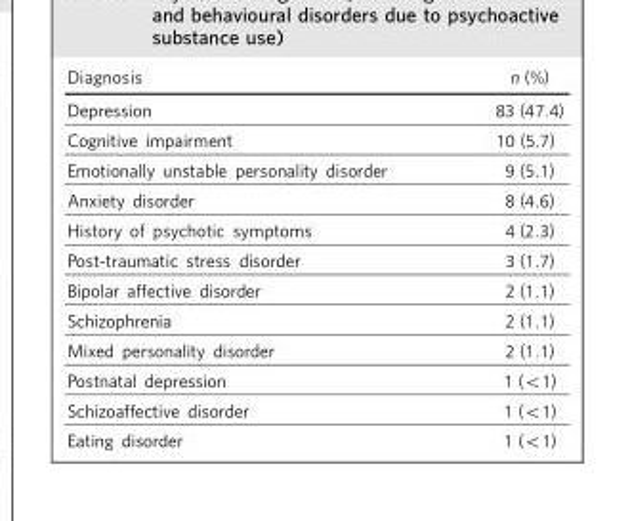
<table><thead><tr><td>Diagnosis</td><td>n (%)</td></tr></thead><tbody><tr><td>Depression</td><td>83 (47.4)</td></tr><tr><td>Cognitive impairment</td><td>10 (5.7)</td></tr><tr><td>Emotionally unstable personality disorder</td><td>9 (5.1)</td></tr><tr><td>Anxiety disorder</td><td>8 (4.6)</td></tr><tr><td>History of psychotic symptoms</td><td>4 (2.3)</td></tr><tr><td>Post-traumatic stress disorder</td><td>3 (1.7)</td></tr><tr><td>Bipolar affective disorder</td><td>2 (1.1)</td></tr><tr><td>Schizophrenia</td><td>2 (1.1)</td></tr><tr><td>Mixed personality disorder</td><td>2 (1.1)</td></tr><tr><td>Postnatal depression</td><td>1 (&lt;1)</td></tr><tr><td>Schizoaffective disorder</td><td>1 (&lt;1)</td></tr><tr><td>Eating disorder</td><td>1 (&lt;1)</td></tr></tbody></table>